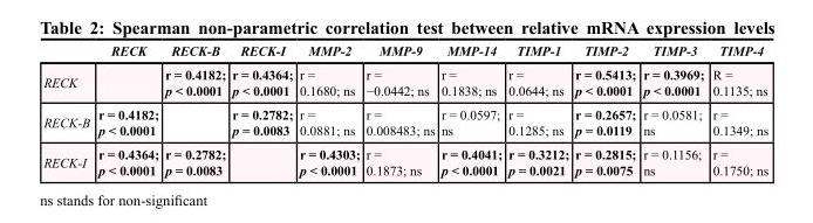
<table><thead><tr><td></td><td>RECK</td><td>RECK-B</td><td>RECK-I</td><td>MMP-2</td><td>MMP-9</td><td>MMP-14</td><td>TIMP-1</td><td>TIMP-2</td><td>TIMP-3</td><td>TIMP-4</td></tr></thead><tbody><tr><td>RECK</td><td></td><td>r = 0.4182; p &lt; 0.0001</td><td>r = 0.4364; p &lt; 0.0001</td><td>r = 0.1680; ns</td><td>r = −0.0442; ns</td><td>r = 0.1838; ns</td><td>r = 0.0644; ns</td><td>r = 0.5413; p &lt; 0.0001</td><td>r = 0.3969; p &lt; 0.0001</td><td>R = 0.1135; ns</td></tr><tr><td>RECK-B</td><td>r = 0.4182; p &lt; 0.0001</td><td></td><td>r = 0.2782; p = 0.0083</td><td>r = 0.0881; ns</td><td>r = 0.008483; ns</td><td>r = 0.0597; ns</td><td>r = 0.1285; ns</td><td>r = 0.2657; p = 0.0119</td><td>r = 0.0581; ns</td><td>r = 0.1349; ns</td></tr><tr><td>RECK-I</td><td>r = 0.4364; p &lt; 0.0001</td><td>r = 0.2782; p = 0.0083</td><td></td><td>r = 0.4303; p &lt; 0.0001</td><td>r = 0.1873; ns</td><td>r = 0.4041; p &lt; 0.0001</td><td>r = 0.3212; p = 0.0021</td><td>r = 0.2815; p = 0.0075</td><td>r = 0.1156; ns</td><td>r = 0.1750; ns</td></tr></tbody></table>